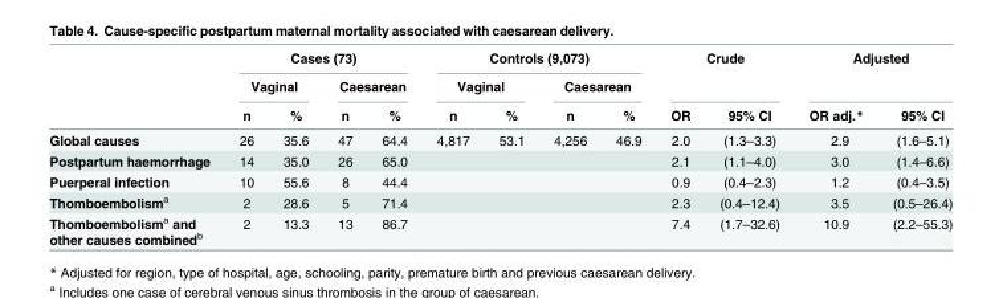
<table><thead><tr><td rowspan="3"></td><td colspan="4">Cases (73)</td><td colspan="4">Controls (9,073)</td><td rowspan="2" colspan="2">Crude</td><td rowspan="2" colspan="2">Adjusted</td></tr><tr><td colspan="2">Vaginal</td><td colspan="2">Caesarean</td><td colspan="2">Vaginal</td><td colspan="2">Caesarean</td></tr><tr><td>n</td><td>%</td><td>n</td><td>%</td><td>n</td><td>%</td><td>n</td><td>%</td><td>OR</td><td>95% CI</td><td>OR adj.*</td><td>95% CI</td></tr></thead><tbody><tr><td>Global causes</td><td>26</td><td>35.6</td><td>47</td><td>64.4</td><td>4,817</td><td>53.1</td><td>4,256</td><td>46.9</td><td>2.0</td><td>(1.3–3.3)</td><td>2.9</td><td>(1.6–5.1)</td></tr><tr><td>Postpartum haemorrhage</td><td>14</td><td>35.0</td><td>26</td><td>65.0</td><td></td><td></td><td></td><td></td><td>2.1</td><td>(1.1–4.0)</td><td>3.0</td><td>(1.4–6.6)</td></tr><tr><td>Puerperal infection</td><td>10</td><td>55.6</td><td>8</td><td>44.4</td><td></td><td></td><td></td><td></td><td>0.9</td><td>(0.4–2.3)</td><td>1.2</td><td>(0.4–3.5)</td></tr><tr><td>Thomboembolism<sup>a</sup></td><td>2</td><td>28.6</td><td>5</td><td>71.4</td><td></td><td></td><td></td><td></td><td>2.3</td><td>(0.4–12.4)</td><td>3.5</td><td>(0.5–26.4)</td></tr><tr><td>Thomboembolism<sup>a</sup> and other causes combined<sup>b</sup></td><td>2</td><td>13.3</td><td>13</td><td>86.7</td><td></td><td></td><td></td><td></td><td>7.4</td><td>(1.7–32.6)</td><td>10.9</td><td>(2.2–55.3)</td></tr></tbody></table>